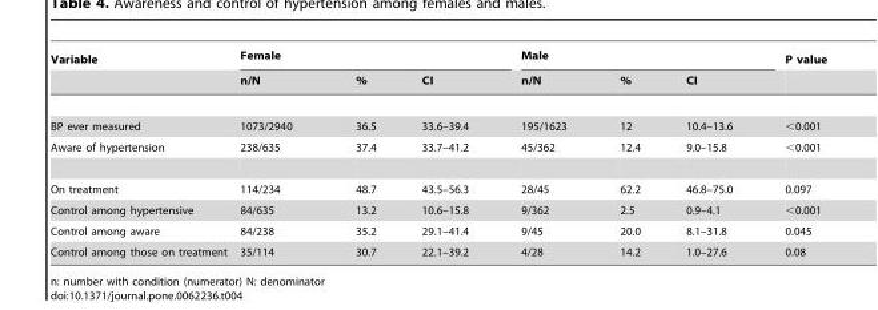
<table><thead><tr><td rowspan="2">Variable</td><td colspan="3">Female</td><td colspan="3">Male</td><td rowspan="2">P value</td></tr><tr><td>n/N</td><td>%</td><td>CI</td><td>n/N</td><td>%</td><td>CI</td></tr></thead><tbody><tr><td>BP ever measured</td><td>1073/2940</td><td>36.5</td><td>33.6–39.4</td><td>195/1623</td><td>12</td><td>10.4–13.6</td><td>&lt;0.001</td></tr><tr><td>Aware of hypertension</td><td>238/635</td><td>37.4</td><td>33.7–41.2</td><td>45/362</td><td>12.4</td><td>9.0–15.8</td><td>&lt;0.001</td></tr><tr><td>On treatment</td><td>114/234</td><td>48.7</td><td>43.5–56.3</td><td>28/45</td><td>62.2</td><td>46.8–75.0</td><td>0.097</td></tr><tr><td>Control among hypertensive</td><td>84/635</td><td>13.2</td><td>10.6–15.8</td><td>9/362</td><td>2.5</td><td>0.9–4.1</td><td>&lt;0.001</td></tr><tr><td>Control among aware</td><td>84/238</td><td>35.2</td><td>29.1–41.4</td><td>9/45</td><td>20.0</td><td>8.1–31.8</td><td>0.045</td></tr><tr><td>Control among those on treatment</td><td>35/114</td><td>30.7</td><td>22.1–39.2</td><td>4/28</td><td>14.2</td><td>1.0–27.6</td><td>0.08</td></tr></tbody></table>